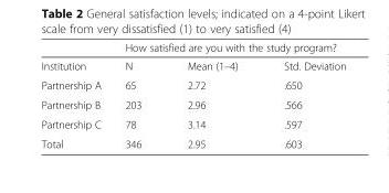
<table><thead><tr><td rowspan="2">Institution</td><td colspan="3">How satisfied are you with the study program?</td></tr><tr><td>N</td><td>Mean (1–4)</td><td>Std. Deviation</td></tr></thead><tbody><tr><td>Partnership A</td><td>65</td><td>2.72</td><td>.650</td></tr><tr><td>Partnership B</td><td>203</td><td>2.96</td><td>.566</td></tr><tr><td>Partnership C</td><td>78</td><td>3.14</td><td>.597</td></tr><tr><td>Total</td><td>346</td><td>2.95</td><td>.603</td></tr></tbody></table>